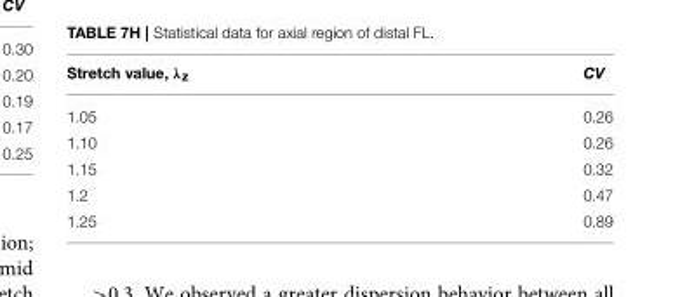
<table><thead><tr><td>Stretch value, λ<sub>z</sub></td><td>CV</td></tr></thead><tbody><tr><td>1.05</td><td>0.26</td></tr><tr><td>1.10</td><td>0.26</td></tr><tr><td>1.15</td><td>0.32</td></tr><tr><td>1.2</td><td>0.47</td></tr><tr><td>1.25</td><td>0.89</td></tr></tbody></table>